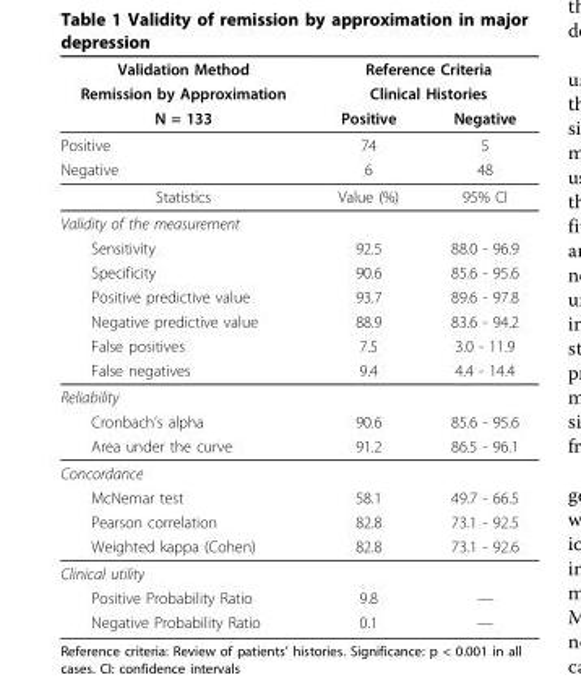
<table><thead><tr><td rowspan="3">Validation Method Remission by Approximation N = 133</td><td rowspan="2" colspan="2">Reference Criteria Clinical Histories</td></tr><tr></tr><tr><td>Positive</td><td>Negative</td></tr></thead><tbody><tr><td>Positive</td><td>74</td><td>5</td></tr><tr><td>Negative</td><td>6</td><td>48</td></tr><tr><td>Statistics</td><td>Value (%)</td><td>95% CI</td></tr><tr><td colspan="3">Validity of the measurement</td></tr><tr><td>Sensitivity</td><td>92.5</td><td>88.0 - 96.9</td></tr><tr><td>Specificity</td><td>90.6</td><td>85.6 - 95.6</td></tr><tr><td>Positive predictive value</td><td>93.7</td><td>89.6 - 97.8</td></tr><tr><td>Negative predictive value</td><td>88.9</td><td>83.6 - 94.2</td></tr><tr><td>False positives</td><td>7.5</td><td>3.0 - 11.9</td></tr><tr><td>False negatives</td><td>9.4</td><td>4.4 - 14.4</td></tr><tr><td colspan="3">Reliability</td></tr><tr><td>Cronbach’s alpha</td><td>90.6</td><td>85.6 - 95.6</td></tr><tr><td>Area under the curve</td><td>91.2</td><td>86.5 - 96.1</td></tr><tr><td colspan="3">Concordance</td></tr><tr><td>McNemar test</td><td>58.1</td><td>49.7 - 66.5</td></tr><tr><td>Pearson correlation</td><td>82.8</td><td>73.1 - 92.5</td></tr><tr><td>Weighted kappa (Cohen)</td><td>82.8</td><td>73.1 - 92.6</td></tr><tr><td colspan="3">Clinical utility</td></tr><tr><td>Positive Probability Ratio</td><td>9.8</td><td>—</td></tr><tr><td>Negative Probability Ratio</td><td>0.1</td><td>—</td></tr></tbody></table>